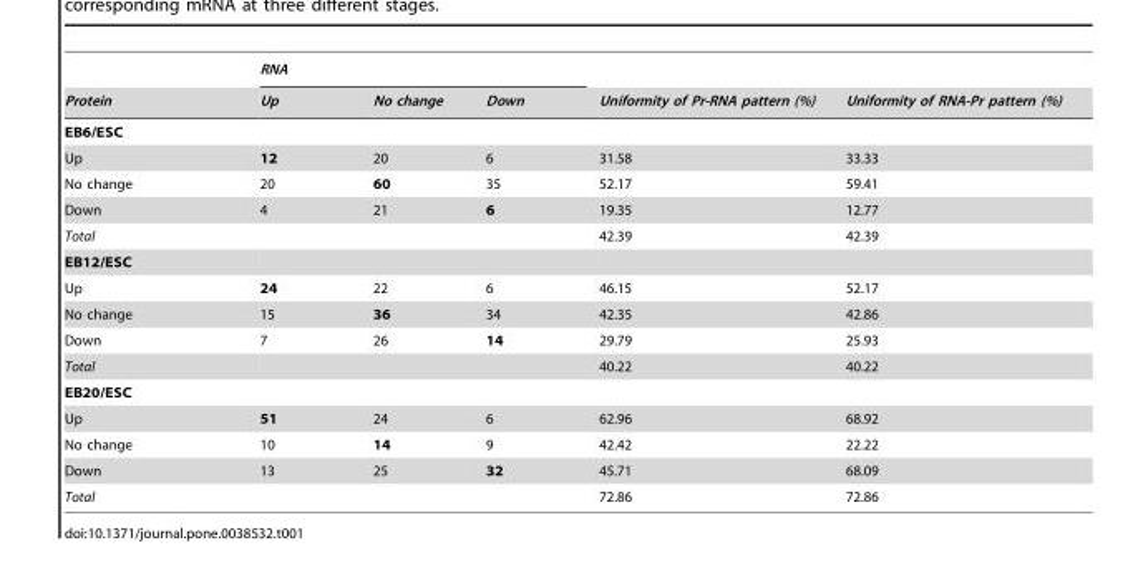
<table><thead><tr><td rowspan="2">Protein</td><td colspan="3">RNA</td><td rowspan="2">Uniformity of Pr-RNA pattern (%)</td><td rowspan="2">Uniformity of RNA-Pr pattern (%)</td></tr><tr><td>Up</td><td>No change</td><td>Down</td></tr></thead><tbody><tr><td colspan="6">EB6/ESC</td></tr><tr><td>Up</td><td>12</td><td>20</td><td>6</td><td>31.58</td><td>33.33</td></tr><tr><td>No change</td><td>20</td><td>60</td><td>35</td><td>52.17</td><td>59.41</td></tr><tr><td>Down</td><td>4</td><td>21</td><td>6</td><td>19.35</td><td>12.77</td></tr><tr><td>Total</td><td></td><td></td><td></td><td>42.39</td><td>42.39</td></tr><tr><td colspan="6">EB12/ESC</td></tr><tr><td>Up</td><td>24</td><td>22</td><td>6</td><td>46.15</td><td>52.17</td></tr><tr><td>No change</td><td>15</td><td>36</td><td>34</td><td>42.35</td><td>42.86</td></tr><tr><td>Down</td><td>7</td><td>26</td><td>14</td><td>29.79</td><td>25.93</td></tr><tr><td>Total</td><td></td><td></td><td></td><td>40.22</td><td>40.22</td></tr><tr><td colspan="6">EB20/ESC</td></tr><tr><td>Up</td><td>51</td><td>24</td><td>6</td><td>62.96</td><td>68.92</td></tr><tr><td>No change</td><td>10</td><td>14</td><td>9</td><td>42.42</td><td>22.22</td></tr><tr><td>Down</td><td>13</td><td>25</td><td>32</td><td>45.71</td><td>68.09</td></tr><tr><td>Total</td><td></td><td></td><td></td><td>72.86</td><td>72.86</td></tr></tbody></table>